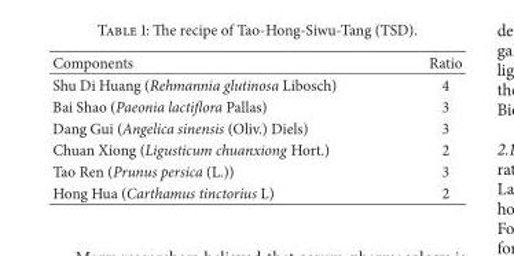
<table><thead><tr><td>Components</td><td>Ratio</td></tr></thead><tbody><tr><td>Shu Di Huang (Rehmannia glutinosa Libosch)</td><td>4</td></tr><tr><td>Bai Shao (Paeonia lactiflora Pallas)</td><td>3</td></tr><tr><td>Dang Gui (Angelica sinensis (Oliv.) Diels)</td><td>3</td></tr><tr><td>Chuan Xiong (Ligusticum chuanxiong Hort.)</td><td>2</td></tr><tr><td>Tao Ren (Prunus persica (L.))</td><td>3</td></tr><tr><td>Hong Hua (Carthamus tinctorius L)</td><td>2</td></tr></tbody></table>